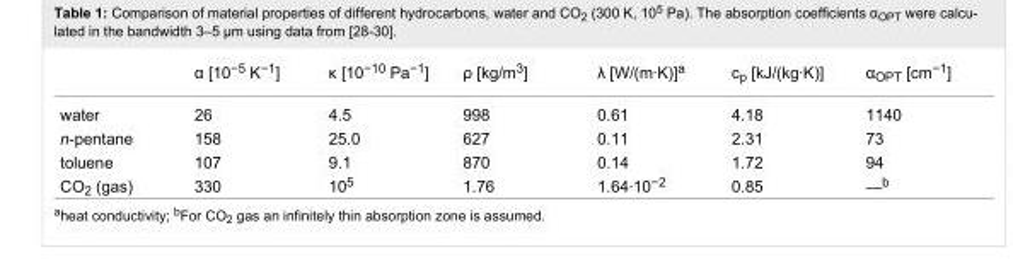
<table><thead><tr><td></td><td>α [10<sup>−5</sup> K<sup>−1</sup>]</td><td>κ [10<sup>−10</sup> Pa<sup>−1</sup>]</td><td>ρ [kg/m<sup>3</sup>]</td><td>λ [W/(m·K)]<sup>a</sup></td><td>c<sub>p</sub> [kJ/(kg·K)]</td><td>α<sub>OPT</sub> [cm<sup>−1</sup>]</td></tr></thead><tbody><tr><td>water</td><td>26</td><td>4.5</td><td>998</td><td>0.61</td><td>4.18</td><td>1140</td></tr><tr><td>n-pentane</td><td>158</td><td>25.0</td><td>627</td><td>0.11</td><td>2.31</td><td>73</td></tr><tr><td>toluene</td><td>107</td><td>9.1</td><td>870</td><td>0.14</td><td>1.72</td><td>94</td></tr><tr><td>CO<sub>2</sub> (gas)</td><td>330</td><td>10<sup>5</sup></td><td>1.76</td><td>1.64·10<sup>−2</sup></td><td>0.85</td><td>—<sup>b</sup></td></tr></tbody></table>